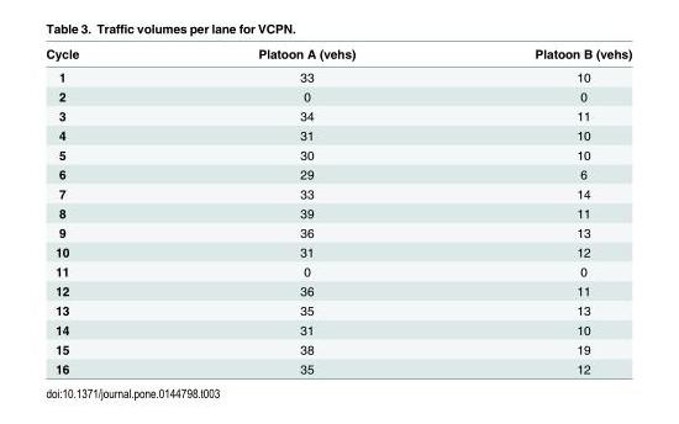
<table><thead><tr><td>Cycle</td><td>Platoon A (vehs)</td><td>Platoon B (vehs)</td></tr></thead><tbody><tr><td>1</td><td>33</td><td>10</td></tr><tr><td>2</td><td>0</td><td>0</td></tr><tr><td>3</td><td>34</td><td>11</td></tr><tr><td>4</td><td>31</td><td>10</td></tr><tr><td>5</td><td>30</td><td>10</td></tr><tr><td>6</td><td>29</td><td>6</td></tr><tr><td>7</td><td>33</td><td>14</td></tr><tr><td>8</td><td>39</td><td>11</td></tr><tr><td>9</td><td>36</td><td>13</td></tr><tr><td>10</td><td>31</td><td>12</td></tr><tr><td>11</td><td>0</td><td>0</td></tr><tr><td>12</td><td>36</td><td>11</td></tr><tr><td>13</td><td>35</td><td>13</td></tr><tr><td>14</td><td>31</td><td>10</td></tr><tr><td>15</td><td>38</td><td>19</td></tr><tr><td>16</td><td>35</td><td>12</td></tr></tbody></table>